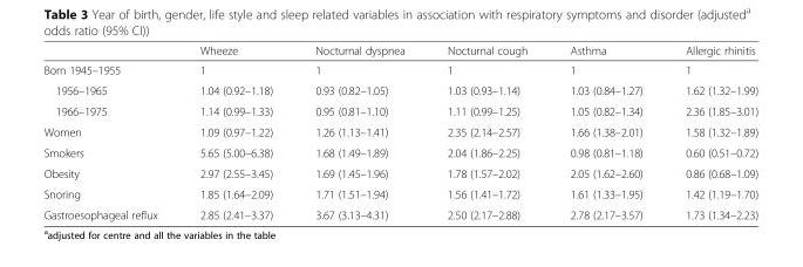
<table><thead><tr><td></td><td>Wheeze</td><td>Nocturnal dyspnea</td><td>Nocturnal cough</td><td>Asthma</td><td>Allergic rhinitis</td></tr></thead><tbody><tr><td>Born 1945–1955</td><td>1</td><td>1</td><td>1</td><td>1</td><td>1</td></tr><tr><td>1956–1965</td><td>1.04 (0.92–1.18)</td><td>0.93 (0.82–1.05)</td><td>1.03 (0.93–1.14)</td><td>1.03 (0.84–1.27)</td><td>1.62 (1.32–1.99)</td></tr><tr><td>1966–1975</td><td>1.14 (0.99–1.33)</td><td>0.95 (0.81–1.10)</td><td>1.11 (0.99–1.25)</td><td>1.05 (0.82–1.34)</td><td>2.36 (1.85–3.01)</td></tr><tr><td>Women</td><td>1.09 (0.97–1.22)</td><td>1.26 (1.13–1.41)</td><td>2.35 (2.14–2.57)</td><td>1.66 (1.38–2.01)</td><td>1.58 (1.32–1.89)</td></tr><tr><td>Smokers</td><td>5.65 (5.00–6.38)</td><td>1.68 (1.49–1.89)</td><td>2.04 (1.86–2.25)</td><td>0.98 (0.81–1.18)</td><td>0.60 (0.51–0.72)</td></tr><tr><td>Obesity</td><td>2.97 (2.55–3.45)</td><td>1.69 (1.45–1.96)</td><td>1.78 (1.57–2.02)</td><td>2.05 (1.62–2.60)</td><td>0.86 (0.68–1.09)</td></tr><tr><td>Snoring</td><td>1.85 (1.64–2.09)</td><td>1.71 (1.51–1.94)</td><td>1.56 (1.41–1.72)</td><td>1.61 (1.33–1.95)</td><td>1.42 (1.19–1.70)</td></tr><tr><td>Gastroesophageal reflux</td><td>2.85 (2.41–3.37)</td><td>3.67 (3.13–4.31)</td><td>2.50 (2.17–2.88)</td><td>2.78 (2.17–3.57)</td><td>1.73 (1.34–2.23)</td></tr></tbody></table>